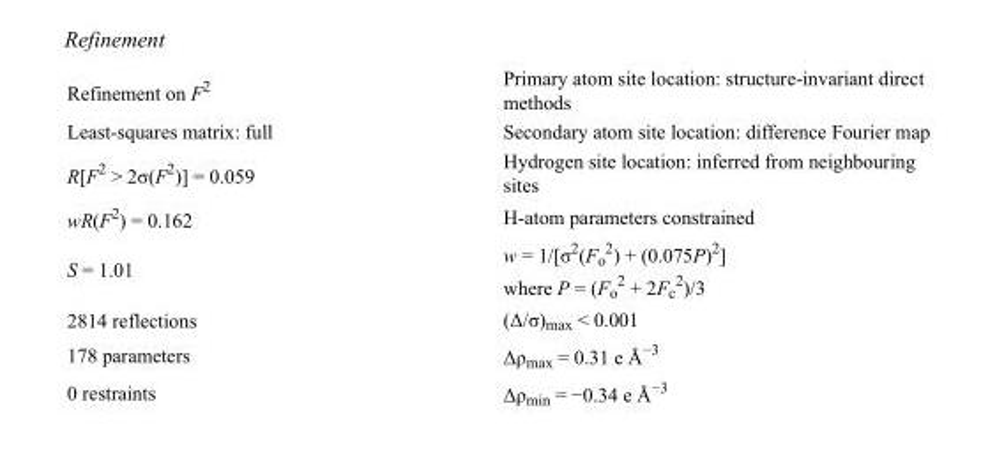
<table><tbody><tr><td>Refinement on F<sup>2</sup></td><td>Primary atom site location: structure-invariant direct methods</td></tr><tr><td>Least-squares matrix: full</td><td>Secondary atom site location: difference Fourier map</td></tr><tr><td>R[F<sup>2</sup> &gt; 2σ(F<sup>2</sup>)] = 0.059</td><td>Hydrogen site location: inferred from neighbouring sites</td></tr><tr><td>wR(F<sup>2</sup>) = 0.162</td><td>H-atom parameters constrained</td></tr><tr><td>S = 1.01</td><td>w = 1/[σ<sup>2</sup>(F<sub>o</sub> <sup>2</sup>) + (0.075P)<sup>2</sup>] where P = (F<sub>o</sub> <sup>2</sup> + 2F<sub>c</sub> <sup>2</sup>)/3</td></tr><tr><td>2814 reflections</td><td>(Δ/σ)<sub>max</sub> &lt; 0.001</td></tr><tr><td>178 parameters</td><td>Δρ<sub>max</sub> = 0.31 e Å<sup>−3</sup></td></tr><tr><td>0 restraints</td><td>Δρ<sub>min</sub> = −0.34 e Å<sup>−3</sup></td></tr></tbody></table>